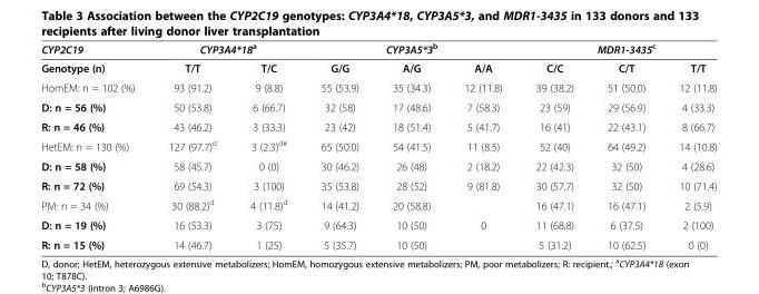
<table><thead><tr><td rowspan="2">CYP2C19 Genotype (n)</td><td colspan="2">CYP3A4*18<sup>a</sup></td><td colspan="3">CYP3A5*3<sup>b</sup></td><td colspan="3">MDR1-3435<sup>c</sup></td></tr><tr><td>T/T</td><td>T/C</td><td>G/G</td><td>A/G</td><td>A/A</td><td>C/C</td><td>C/T</td><td>T/T</td></tr></thead><tbody><tr><td>HomEM: n = 102 (%)</td><td>93 (91.2)</td><td>9 (8.8)</td><td>55 (53.9)</td><td>35 (34.3)</td><td>12 (11.8)</td><td>39 (38.2)</td><td>51 (50.0)</td><td>12 (11.8)</td></tr><tr><td>D: n = 56 (%)</td><td>50 (53.8)</td><td>6 (66.7)</td><td>32 (58)</td><td>17 (48.6)</td><td>7 (58.3)</td><td>23 (59)</td><td>29 (56.9)</td><td>4 (33.3)</td></tr><tr><td>R: n = 46 (%)</td><td>43 (46.2)</td><td>3 (33.3)</td><td>23 (42)</td><td>18 (51.4)</td><td>5 (41.7)</td><td>16 (41)</td><td>22 (43.1)</td><td>8 (66.7)</td></tr><tr><td>HetEM: n = 130 (%)</td><td>127 (97.7)<sup>d</sup></td><td>3 (2.3)<sup>d#</sup></td><td>65 (50.0)</td><td>54 (41.5)</td><td>11 (8.5)</td><td>52 (40)</td><td>64 (49.2)</td><td>14 (10.8)</td></tr><tr><td>D: n = 58 (%)</td><td>58 (45.7)</td><td>0 (0)</td><td>30 (46.2)</td><td>26 (48)</td><td>2 (18.2)</td><td>22 (42.3)</td><td>32 (50)</td><td>4 (28.6)</td></tr><tr><td>R: n = 72 (%)</td><td>69 (54.3)</td><td>3 (100)</td><td>35 (53.8)</td><td>28 (52)</td><td>9 (81.8)</td><td>30 (57.7)</td><td>32 (50)</td><td>10 (71.4)</td></tr><tr><td>PM: n = 34 (%)</td><td>30 (88.2)<sup>d</sup></td><td>4 (11.8)<sup>d</sup></td><td>14 (41.2)</td><td>20 (58.8)</td><td></td><td>16 (47.1)</td><td>16 (47.1)</td><td>2 (5.9)</td></tr><tr><td>D: n = 19 (%)</td><td>16 (53.3)</td><td>3 (75)</td><td>9 (64.3)</td><td>10 (50)</td><td>0</td><td>11 (68.8)</td><td>6 (37.5)</td><td>2 (100)</td></tr><tr><td>R: n = 15 (%)</td><td>14 (46.7)</td><td>1 (25)</td><td>5 (35.7)</td><td>10 (50)</td><td></td><td>5 (31.2)</td><td>10 (62.5)</td><td>0 (0)</td></tr></tbody></table>